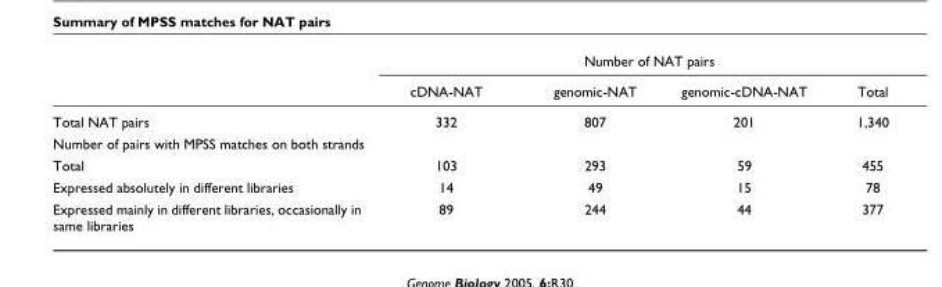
<table><thead><tr><td rowspan="2"></td><td colspan="4">Number of NAT pairs</td></tr><tr><td>cDNA-NAT</td><td>genomic-NAT</td><td>genomic-cDNA-NAT</td><td>Total</td></tr></thead><tbody><tr><td>Total NAT pairs</td><td>332</td><td>807</td><td>201</td><td>1,340</td></tr><tr><td colspan="5">Number of pairs with MPSS matches on both strands</td></tr><tr><td>Total</td><td>103</td><td>293</td><td>59</td><td>455</td></tr><tr><td>Expressed absolutely in different libraries</td><td>14</td><td>49</td><td>15</td><td>78</td></tr><tr><td>Expressed mainly in different libraries, occasionally in same libraries</td><td>89</td><td>244</td><td>44</td><td>377</td></tr></tbody></table>